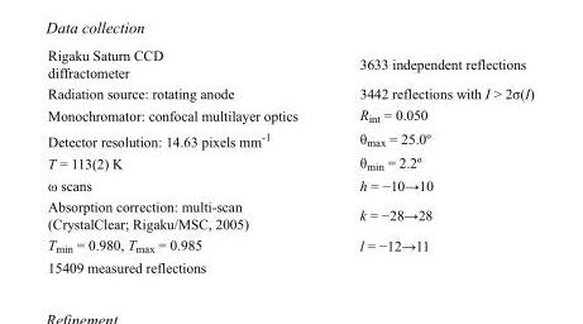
<table><tbody><tr><td>Rigaku Saturn CCD diffractometer</td><td>3633 independent reflections</td></tr><tr><td>Radiation source: rotating anode</td><td>3442 reflections with I &gt; 2σ(I)</td></tr><tr><td>Monochromator: confocal multilayer optics</td><td>R<sub>int</sub> = 0.050</td></tr><tr><td>Detector resolution: 14.63 pixels mm<sup>-1</sup></td><td>θ<sub>max</sub> = 25.0º</td></tr><tr><td>T = 113(2) K</td><td>θ<sub>min</sub> = 2.2º</td></tr><tr><td>ω scans</td><td>h = −10→10</td></tr><tr><td>Absorption correction: multi-scan (CrystalClear; Rigaku/MSC, 2005)</td><td>k = −28→28</td></tr><tr><td>T<sub>min</sub> = 0.980, T<sub>max</sub> = 0.985</td><td>l = −12→11</td></tr><tr><td>15409 measured reflections</td><td></td></tr></tbody></table>